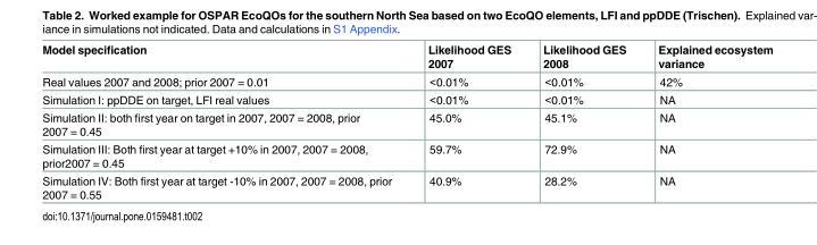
<table><thead><tr><td>Model specification</td><td>Likelihood GES 2007</td><td>Likelihood GES 2008</td><td>Explained ecosystem variance</td></tr></thead><tbody><tr><td>Real values 2007 and 2008; prior 2007 = 0.01</td><td>&lt;0.01%</td><td>&lt;0.01%</td><td>42%</td></tr><tr><td>Simulation I: ppDDE on target, LFI real values</td><td>&lt;0.01%</td><td>&lt;0.01%</td><td>NA</td></tr><tr><td>Simulation II: both first year on target in 2007, 2007 = 2008, prior 2007 = 0.45</td><td>45.0%</td><td>45.1%</td><td>NA</td></tr><tr><td>Simulation III: Both first year at target +10% in 2007, 2007 = 2008, prior2007 = 0.45</td><td>59.7%</td><td>72.9%</td><td>NA</td></tr><tr><td>Simulation IV: Both first year at target -10% in 2007, 2007 = 2008, prior 2007 = 0.55</td><td>40.9%</td><td>28.2%</td><td>NA</td></tr></tbody></table>